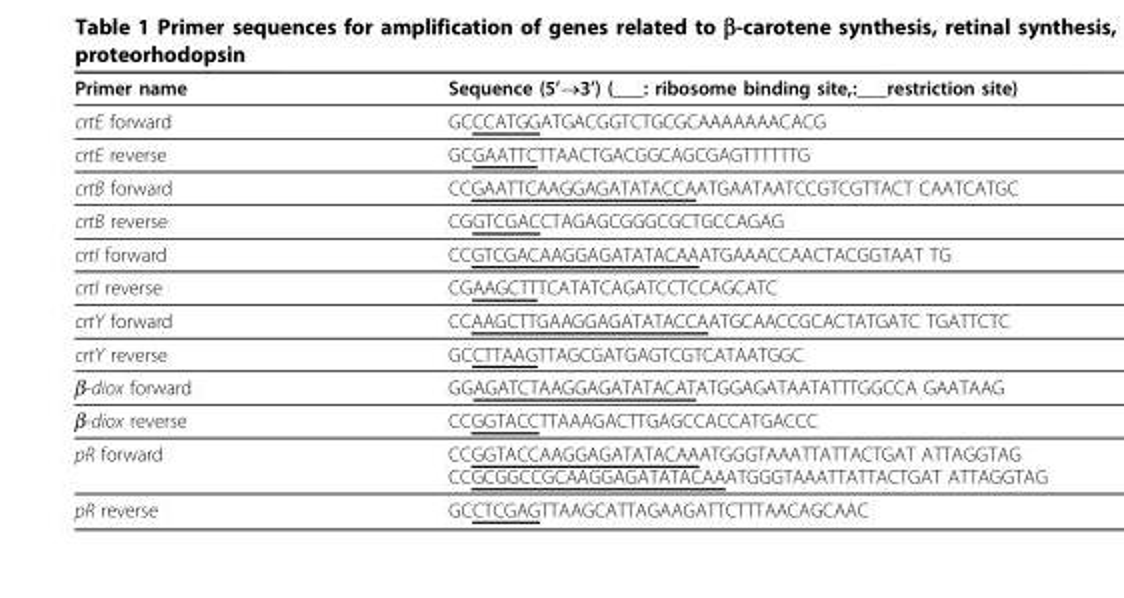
<table><thead><tr><td>Primer name</td><td>Sequence (5’→3’) (___: ribosome binding site,:___restriction site)</td></tr></thead><tbody><tr><td>crtE forward</td><td>GCCCATGGATGACGGTCTGCGCAAAAAAACACG</td></tr><tr><td>crtE reverse</td><td>GCGAATTCTTAACTGACGGCAGCGAGTTTTTTG</td></tr><tr><td>crtB forward</td><td>CCGAATTCAAGGAGATATACCAATGAATAATCCGTCGTTACT CAATCATGC</td></tr><tr><td>crtB reverse</td><td>CGGTCGACCTAGAGCGGGCGCTGCCAGAG</td></tr><tr><td>crtI forward</td><td>CCGTCGACAAGGAGATATACAAATGAAACCAACTACGGTAAT TG</td></tr><tr><td>crtI reverse</td><td>CGAAGCTTTCATATCAGATCCTCCAGCATC</td></tr><tr><td>crtY forward</td><td>CCAAGCTTGAAGGAGATATACCAATGCAACCGCACTATGATC TGATTCTC</td></tr><tr><td>crtY reverse</td><td>GCCTTAAGTTAGCGATGAGTCGTCATAATGGC</td></tr><tr><td>β-diox forward</td><td>GGAGATCTAAGGAGATATACATATGGAGATAATATTTGGCCA GAATAAG</td></tr><tr><td>β-diox reverse</td><td>CCGGTACCTTAAAGACTTGAGCCACCATGACCC</td></tr><tr><td>pR forward</td><td>CCGGTACCAAGGAGATATACAAATGGGTAAATTATTACTGAT ATTAGGTAG CCGCGGCCGCAAGGAGATATACAAATGGGTAAATTATTACTGAT ATTAGGTAG</td></tr><tr><td>pR reverse</td><td>GCCTCGAGTTAAGCATTAGAAGATTCTTTAACAGCAAC</td></tr></tbody></table>